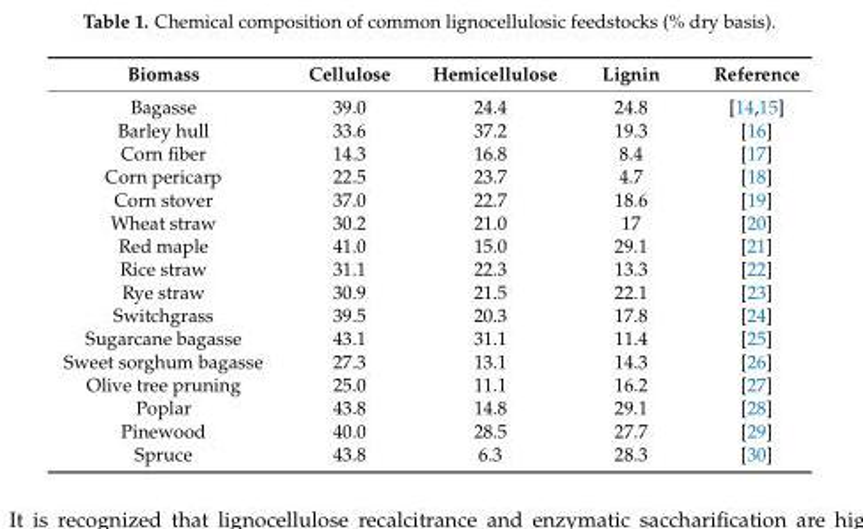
<table><thead><tr><td>Biomass</td><td>Cellulose</td><td>Hemicellulose</td><td>Lignin</td><td>Reference</td></tr></thead><tbody><tr><td>Bagasse</td><td>39.0</td><td>24.4</td><td>24.8</td><td>[14,15]</td></tr><tr><td>Barley hull</td><td>33.6</td><td>37.2</td><td>19.3</td><td>[16]</td></tr><tr><td>Corn fiber</td><td>14.3</td><td>16.8</td><td>8.4</td><td>[17]</td></tr><tr><td>Corn pericarp</td><td>22.5</td><td>23.7</td><td>4.7</td><td>[18]</td></tr><tr><td>Corn stover</td><td>37.0</td><td>22.7</td><td>18.6</td><td>[19]</td></tr><tr><td>Wheat straw</td><td>30.2</td><td>21.0</td><td>17</td><td>[20]</td></tr><tr><td>Red maple</td><td>41.0</td><td>15.0</td><td>29.1</td><td>[21]</td></tr><tr><td>Rice straw</td><td>31.1</td><td>22.3</td><td>13.3</td><td>[22]</td></tr><tr><td>Rye straw</td><td>30.9</td><td>21.5</td><td>22.1</td><td>[23]</td></tr><tr><td>Switchgrass</td><td>39.5</td><td>20.3</td><td>17.8</td><td>[24]</td></tr><tr><td>Sugarcane bagasse</td><td>43.1</td><td>31.1</td><td>11.4</td><td>[25]</td></tr><tr><td>Sweet sorghum bagasse</td><td>27.3</td><td>13.1</td><td>14.3</td><td>[26]</td></tr><tr><td>Olive tree pruning</td><td>25.0</td><td>11.1</td><td>16.2</td><td>[27]</td></tr><tr><td>Poplar</td><td>43.8</td><td>14.8</td><td>29.1</td><td>[28]</td></tr><tr><td>Pinewood</td><td>40.0</td><td>28.5</td><td>27.7</td><td>[29]</td></tr><tr><td>Spruce</td><td>43.8</td><td>6.3</td><td>28.3</td><td>[30]</td></tr></tbody></table>